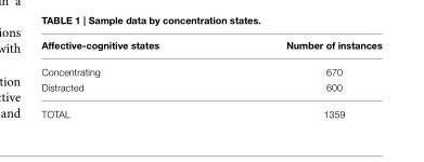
<table><thead><tr><td>Affective-cognitive states</td><td>Number of instances</td></tr></thead><tbody><tr><td>Concentrating</td><td>670</td></tr><tr><td>Distracted</td><td>600</td></tr><tr><td>TOTAL</td><td>1359</td></tr></tbody></table>